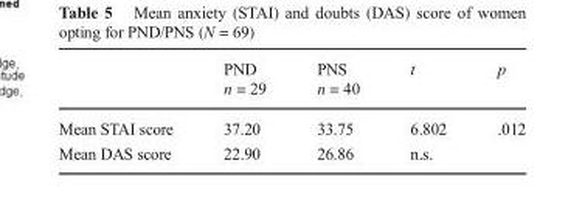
<table><thead><tr><td rowspan="2"></td><td rowspan="2">PND n = 29</td><td rowspan="2">PNS n = 40</td><td rowspan="2">t</td><td rowspan="2">p</td></tr><tr></tr></thead><tbody><tr><td>Mean STAI score</td><td>37.20</td><td>33.75</td><td>6.802</td><td>.012</td></tr><tr><td>Mean DAS score</td><td>22.90</td><td>26.86</td><td>n.s.</td><td></td></tr></tbody></table>